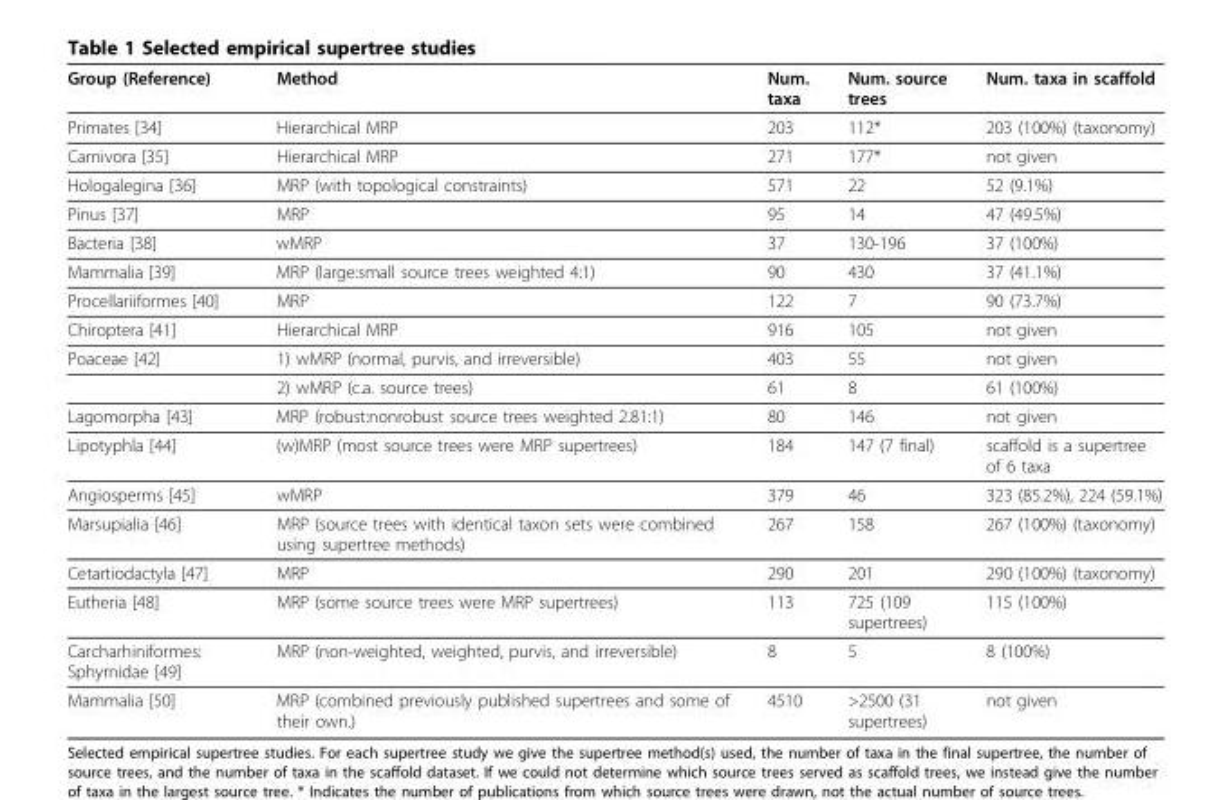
<table><thead><tr><td>Group (Reference)</td><td>Method</td><td>Num. taxa</td><td>Num. source trees</td><td>Num. taxa in scaffold</td></tr></thead><tbody><tr><td>Primates [34]</td><td>Hierarchical MRP</td><td>203</td><td>112*</td><td>203 (100%) (taxonomy)</td></tr><tr><td>Carnivora [35]</td><td>Hierarchical MRP</td><td>271</td><td>177*</td><td>not given</td></tr><tr><td>Hologalegina [36]</td><td>MRP (with topological constraints)</td><td>571</td><td>22</td><td>52 (9.1%)</td></tr><tr><td>Pinus [37]</td><td>MRP</td><td>95</td><td>14</td><td>47 (49.5%)</td></tr><tr><td>Bacteria [38]</td><td>wMRP</td><td>37</td><td>130-196</td><td>37 (100%)</td></tr><tr><td>Mammalia [39]</td><td>MRP (large:small source trees weighted 4:1)</td><td>90</td><td>430</td><td>37 (41.1%)</td></tr><tr><td>Procellariiformes [40]</td><td>MRP</td><td>122</td><td>7</td><td>90 (73.7%)</td></tr><tr><td>Chiroptera [41]</td><td>Hierarchical MRP</td><td>916</td><td>105</td><td>not given</td></tr><tr><td rowspan="2">Poaceae [42]</td><td>1) wMRP (normal, purvis, and irreversible)</td><td>403</td><td>55</td><td>not given</td></tr><tr><td>2) wMRP (c.a. source trees)</td><td>61</td><td>8</td><td>61 (100%)</td></tr><tr><td>Lagomorpha [43]</td><td>MRP (robust:nonrobust source trees weighted 2.81:1)</td><td>80</td><td>146</td><td>not given</td></tr><tr><td>Lipotyphla [44]</td><td>(w)MRP (most source trees were MRP supertrees)</td><td>184</td><td>147 (7 final)</td><td>scaffold is a supertree of 6 taxa</td></tr><tr><td>Angiosperms [45]</td><td>wMRP</td><td>379</td><td>46</td><td>323 (85.2%), 224 (59.1%)</td></tr><tr><td>Marsupialia [46]</td><td>MRP (source trees with identical taxon sets were combined using supertree methods)</td><td>267</td><td>158</td><td>267 (100%) (taxonomy)</td></tr><tr><td>Cetartiodactyla [47]</td><td>MRP</td><td>290</td><td>201</td><td>290 (100%) (taxonomy)</td></tr><tr><td>Eutheria [48]</td><td>MRP (some source trees were MRP supertrees)</td><td>113</td><td>725 (109 supertrees)</td><td>115 (100%)</td></tr><tr><td>Carcharhiniformes: Sphyrnidae [49]</td><td>MRP (non-weighted, weighted, purvis, and irreversible)</td><td>8</td><td>5</td><td>8 (100%)</td></tr><tr><td>Mammalia [50]</td><td>MRP (combined previously published supertrees and some of their own.)</td><td>4510</td><td>&gt;2500 (31 supertrees)</td><td>not given</td></tr></tbody></table>